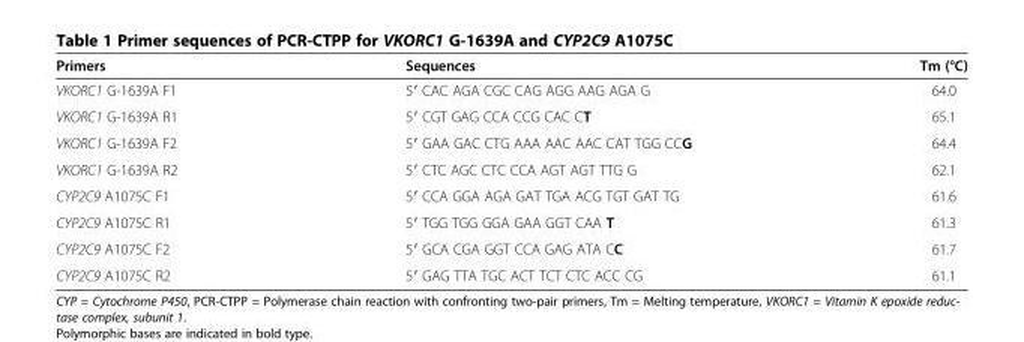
<table><thead><tr><td>Primers</td><td>Sequences</td><td>Tm (°C)</td></tr></thead><tbody><tr><td>VKORC1 G-1639A F1</td><td>5′ CAC AGA CGC CAG AGG AAG AGA G</td><td>64.0</td></tr><tr><td>VKORC1 G-1639A R1</td><td>5′ CGT GAG CCA CCG CAC CT</td><td>65.1</td></tr><tr><td>VKORC1 G-1639A F2</td><td>5′ GAA GAC CTG AAA AAC AAC CAT TGG CCG</td><td>64.4</td></tr><tr><td>VKORC1 G-1639A R2</td><td>5′ CTC AGC CTC CCA AGT AGT TTG G</td><td>62.1</td></tr><tr><td>CYP2C9 A1075C F1</td><td>5′ CCA GGA AGA GAT TGA ACG TGT GAT TG</td><td>61.6</td></tr><tr><td>CYP2C9 A1075C R1</td><td>5′ TGG TGG GGA GAA GGT CAA T</td><td>61.3</td></tr><tr><td>CYP2C9 A1075C F2</td><td>5′ GCA CGA GGT CCA GAG ATA CC</td><td>61.7</td></tr><tr><td>CYP2C9 A1075C R2</td><td>5′ GAG TTA TGC ACT TCT CTC ACC CG</td><td>61.1</td></tr></tbody></table>